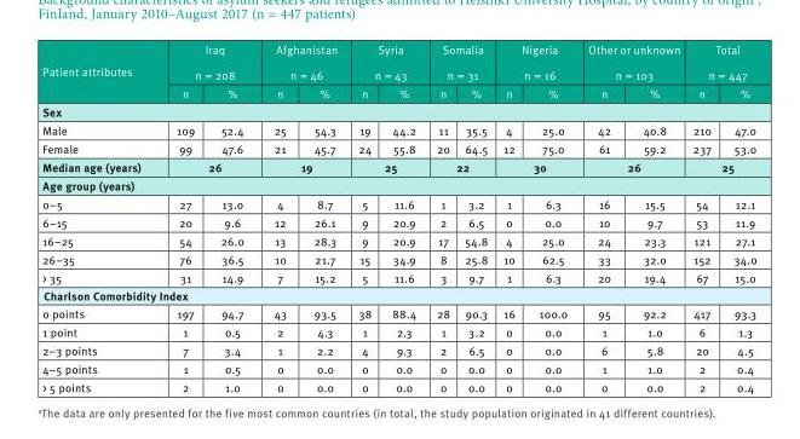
<table><thead><tr><td rowspan="2">Patient attributes</td><td colspan="2">Iraq n = 208</td><td colspan="2">Afghanistan n = 46</td><td colspan="2">Syria n = 43</td><td colspan="2">Somalia n = 31</td><td colspan="2">Nigeria n = 16</td><td colspan="2">Other or unknown n = 103</td><td colspan="2">Total n = 447</td></tr><tr><td>n</td><td>%</td><td>n</td><td>%</td><td>n</td><td>%</td><td>n</td><td>%</td><td>n</td><td>%</td><td>n</td><td>%</td><td>n</td><td>%</td></tr></thead><tbody><tr><td colspan="15">Sex</td></tr><tr><td>Male</td><td>109</td><td>52.4</td><td>25</td><td>54.3</td><td>19</td><td>44.2</td><td>11</td><td>35.5</td><td>4</td><td>25.0</td><td>42</td><td>40.8</td><td>210</td><td>47.0</td></tr><tr><td>Female</td><td>99</td><td>47.6</td><td>21</td><td>45.7</td><td>24</td><td>55.8</td><td>20</td><td>64.5</td><td>12</td><td>75.0</td><td>61</td><td>59.2</td><td>237</td><td>53.0</td></tr><tr><td>Median age (years)</td><td colspan="2">26</td><td colspan="2">19</td><td colspan="2">25</td><td colspan="2">22</td><td colspan="2">30</td><td colspan="2">26</td><td colspan="2">25</td></tr><tr><td colspan="15">Age group (years)</td></tr><tr><td>0–5</td><td>27</td><td>13.0</td><td>4</td><td>8.7</td><td>5</td><td>11.6</td><td>1</td><td>3.2</td><td>1</td><td>6.3</td><td>16</td><td>15.5</td><td>54</td><td>12.1</td></tr><tr><td>6–15</td><td>20</td><td>9.6</td><td>12</td><td>26.1</td><td>9</td><td>20.9</td><td>2</td><td>6.5</td><td>0</td><td>0.0</td><td>10</td><td>9.7</td><td>53</td><td>11.9</td></tr><tr><td>16–25</td><td>54</td><td>26.0</td><td>13</td><td>28.3</td><td>9</td><td>20.9</td><td>17</td><td>54.8</td><td>4</td><td>25.0</td><td>24</td><td>23.3</td><td>121</td><td>27.1</td></tr><tr><td>26–35</td><td>76</td><td>36.5</td><td>10</td><td>21.7</td><td>15</td><td>34.9</td><td>8</td><td>25.8</td><td>10</td><td>62.5</td><td>33</td><td>32.0</td><td>152</td><td>34.0</td></tr><tr><td>&gt; 35</td><td>31</td><td>14.9</td><td>7</td><td>15.2</td><td>5</td><td>11.6</td><td>3</td><td>9.7</td><td>1</td><td>6.3</td><td>20</td><td>19.4</td><td>67</td><td>15.0</td></tr><tr><td colspan="15">Charlson Comorbidity Index</td></tr><tr><td>0 points</td><td>197</td><td>94.7</td><td>43</td><td>93.5</td><td>38</td><td>88.4</td><td>28</td><td>90.3</td><td>16</td><td>100.0</td><td>95</td><td>92.2</td><td>417</td><td>93.3</td></tr><tr><td>1 point</td><td>1</td><td>0.5</td><td>2</td><td>4.3</td><td>1</td><td>2.3</td><td>1</td><td>3.2</td><td>0</td><td>0.0</td><td>1</td><td>1.0</td><td>6</td><td>1.3</td></tr><tr><td>2–3 points</td><td>7</td><td>3.4</td><td>1</td><td>2.2</td><td>4</td><td>9.3</td><td>2</td><td>6.5</td><td>0</td><td>0.0</td><td>6</td><td>5.8</td><td>20</td><td>4.5</td></tr><tr><td>4–5 points</td><td>1</td><td>0.5</td><td>0</td><td>0.0</td><td>0</td><td>0.0</td><td>0</td><td>0.0</td><td>0</td><td>0.0</td><td>1</td><td>1.0</td><td>2</td><td>0.4</td></tr><tr><td>&gt; 5 points</td><td>2</td><td>1.0</td><td>0</td><td>0.0</td><td>0</td><td>0.0</td><td>0</td><td>0.0</td><td>0</td><td>0.0</td><td>0</td><td>0.0</td><td>2</td><td>0.4</td></tr></tbody></table>